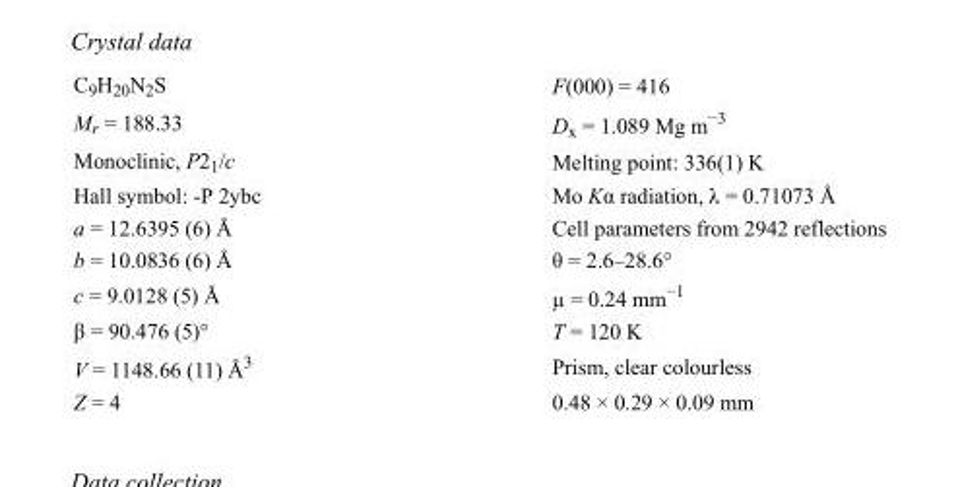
<table><tbody><tr><td>C<sub>9</sub>H<sub>20</sub>N<sub>2</sub>S</td><td>F(000) = 416</td></tr><tr><td>M<sub>r</sub> = 188.33</td><td>D<sub>x</sub> = 1.089 Mg m<sup>−3</sup></td></tr><tr><td>Monoclinic, P2<sub>1</sub>/c</td><td>Melting point: 336(1) K</td></tr><tr><td>Hall symbol: -P 2ybc</td><td>Mo Kα radiation, λ = 0.71073 Å</td></tr><tr><td>a = 12.6395 (6) Å</td><td>Cell parameters from 2942 reflections</td></tr><tr><td>b = 10.0836 (6) Å</td><td>θ = 2.6–28.6°</td></tr><tr><td>c = 9.0128 (5) Å</td><td>µ = 0.24 mm<sup>−1</sup></td></tr><tr><td>β = 90.476 (5)°</td><td>T = 120 K</td></tr><tr><td>V = 1148.66 (11) Å<sup>3</sup></td><td>Prism, clear colourless</td></tr><tr><td>Z = 4</td><td>0.48 × 0.29 × 0.09 mm</td></tr></tbody></table>